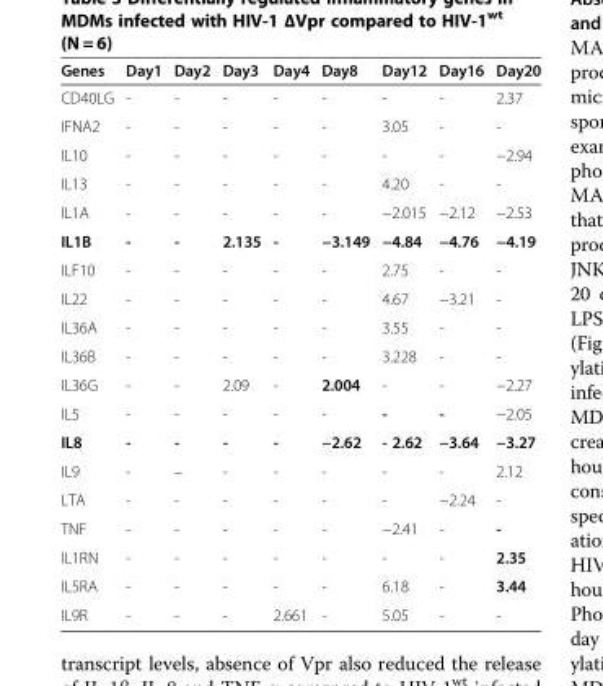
<table><thead><tr><td>Genes</td><td>Day1</td><td>Day2</td><td>Day3</td><td>Day4</td><td>Day8</td><td>Day12</td><td>Day16</td><td>Day20</td></tr></thead><tbody><tr><td>CD40LG</td><td>-</td><td>-</td><td>-</td><td>-</td><td>-</td><td>-</td><td>-</td><td>2.37</td></tr><tr><td>IFNA2</td><td>-</td><td>-</td><td>-</td><td>-</td><td>-</td><td>3.05</td><td>-</td><td>-</td></tr><tr><td>IL10</td><td>-</td><td>-</td><td>-</td><td>-</td><td>-</td><td>-</td><td>-</td><td>−2.94</td></tr><tr><td>IL13</td><td>-</td><td>-</td><td>-</td><td>-</td><td>-</td><td>4.20</td><td>-</td><td>-</td></tr><tr><td>IL1A</td><td>-</td><td>-</td><td>-</td><td>-</td><td>-</td><td>−2.015</td><td>−2.12</td><td>−2.53</td></tr><tr><td>IL1B</td><td>-</td><td>-</td><td>2.135</td><td>-</td><td>−3.149</td><td>−4.84</td><td>−4.76</td><td>−4.19</td></tr><tr><td>ILF10</td><td>-</td><td>-</td><td>-</td><td>-</td><td>-</td><td>2.75</td><td>-</td><td>-</td></tr><tr><td>IL22</td><td>-</td><td>-</td><td>-</td><td>-</td><td>-</td><td>4.67</td><td>−3.21</td><td>-</td></tr><tr><td>IL36A</td><td>-</td><td>-</td><td>-</td><td>-</td><td>-</td><td>3.55</td><td>-</td><td>-</td></tr><tr><td>IL36B</td><td>-</td><td>-</td><td>-</td><td>-</td><td>-</td><td>3.228</td><td>-</td><td>-</td></tr><tr><td>IL36G</td><td>-</td><td>-</td><td>2.09</td><td>-</td><td>2.004</td><td>-</td><td>-</td><td>−2.27</td></tr><tr><td>IL5</td><td>-</td><td>-</td><td>-</td><td>-</td><td>-</td><td>-</td><td>-</td><td>−2.05</td></tr><tr><td>IL8</td><td>-</td><td>-</td><td>-</td><td>-</td><td>−2.62</td><td>- 2.62</td><td>−3.64</td><td>−3.27</td></tr><tr><td>IL9</td><td>-</td><td>–</td><td>-</td><td>-</td><td>-</td><td>-</td><td>-</td><td>2.12</td></tr><tr><td>LTA</td><td>-</td><td>-</td><td>-</td><td>-</td><td>-</td><td>-</td><td>−2.24</td><td>-</td></tr><tr><td>TNF</td><td>-</td><td>-</td><td>-</td><td>-</td><td>-</td><td>−2.41</td><td>-</td><td>-</td></tr><tr><td>IL1RN</td><td>-</td><td>-</td><td>-</td><td>-</td><td>-</td><td>-</td><td>-</td><td>2.35</td></tr><tr><td>IL5RA</td><td>-</td><td>-</td><td>-</td><td>-</td><td>-</td><td>6.18</td><td>-</td><td>3.44</td></tr><tr><td>IL9R</td><td>-</td><td>-</td><td>-</td><td>2.661</td><td>-</td><td>5.05</td><td>-</td><td>-</td></tr></tbody></table>